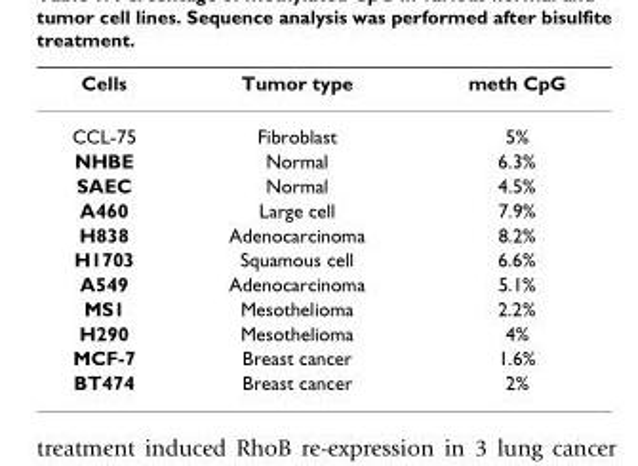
<table><thead><tr><td>Cells</td><td>Tumor type</td><td>meth CpG</td></tr></thead><tbody><tr><td>CCL-75</td><td>Fibroblast</td><td>5%</td></tr><tr><td>NHBE</td><td>Normal</td><td>6.3%</td></tr><tr><td>SAEC</td><td>Normal</td><td>4.5%</td></tr><tr><td>A460</td><td>Large cell</td><td>7.9%</td></tr><tr><td>H838</td><td>Adenocarcinoma</td><td>8.2%</td></tr><tr><td>H1703</td><td>Squamous cell</td><td>6.6%</td></tr><tr><td>A549</td><td>Adenocarcinoma</td><td>5.1%</td></tr><tr><td>MS1</td><td>Mesothelioma</td><td>2.2%</td></tr><tr><td>H290</td><td>Mesothelioma</td><td>4%</td></tr><tr><td>MCF-7</td><td>Breast cancer</td><td>1.6%</td></tr><tr><td>BT474</td><td>Breast cancer</td><td>2%</td></tr></tbody></table>